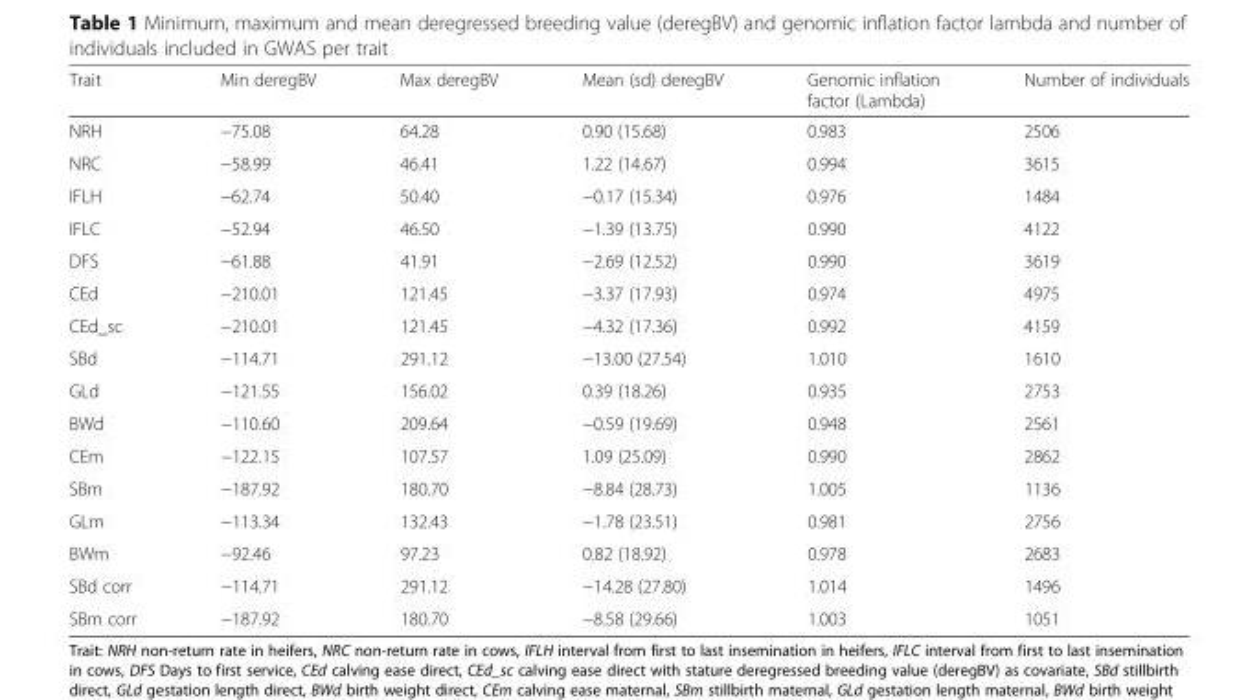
<table><thead><tr><td>Trait</td><td>Min deregBV</td><td>Max deregBV</td><td>Mean (sd) deregBV</td><td>Genomic inflation factor (Lambda)</td><td>Number of individuals</td></tr></thead><tbody><tr><td>NRH</td><td>−75.08</td><td>64.28</td><td>0.90 (15.68)</td><td>0.983</td><td>2506</td></tr><tr><td>NRC</td><td>−58.99</td><td>46.41</td><td>1.22 (14.67)</td><td>0.994</td><td>3615</td></tr><tr><td>IFLH</td><td>−62.74</td><td>50.40</td><td>−0.17 (15.34)</td><td>0.976</td><td>1484</td></tr><tr><td>IFLC</td><td>−52.94</td><td>46.50</td><td>−1.39 (13.75)</td><td>0.990</td><td>4122</td></tr><tr><td>DFS</td><td>−61.88</td><td>41.91</td><td>−2.69 (12.52)</td><td>0.990</td><td>3619</td></tr><tr><td>CEd</td><td>−210.01</td><td>121.45</td><td>−3.37 (17.93)</td><td>0.974</td><td>4975</td></tr><tr><td>CEd_sc</td><td>−210.01</td><td>121.45</td><td>−4.32 (17.36)</td><td>0.992</td><td>4159</td></tr><tr><td>SBd</td><td>−114.71</td><td>291.12</td><td>−13.00 (27.54)</td><td>1.010</td><td>1610</td></tr><tr><td>GLd</td><td>−121.55</td><td>156.02</td><td>0.39 (18.26)</td><td>0.935</td><td>2753</td></tr><tr><td>BWd</td><td>−110.60</td><td>209.64</td><td>−0.59 (19.69)</td><td>0.948</td><td>2561</td></tr><tr><td>CEm</td><td>−122.15</td><td>107.57</td><td>1.09 (25.09)</td><td>0.990</td><td>2862</td></tr><tr><td>SBm</td><td>−187.92</td><td>180.70</td><td>−8.84 (28.73)</td><td>1.005</td><td>1136</td></tr><tr><td>GLm</td><td>−113.34</td><td>132.43</td><td>−1.78 (23.51)</td><td>0.981</td><td>2756</td></tr><tr><td>BWm</td><td>−92.46</td><td>97.23</td><td>0.82 (18.92)</td><td>0.978</td><td>2683</td></tr><tr><td>SBd corr</td><td>−114.71</td><td>291.12</td><td>−14.28 (27.80)</td><td>1.014</td><td>1496</td></tr><tr><td>SBm corr</td><td>−187.92</td><td>180.70</td><td>−8.58 (29.66)</td><td>1.003</td><td>1051</td></tr></tbody></table>